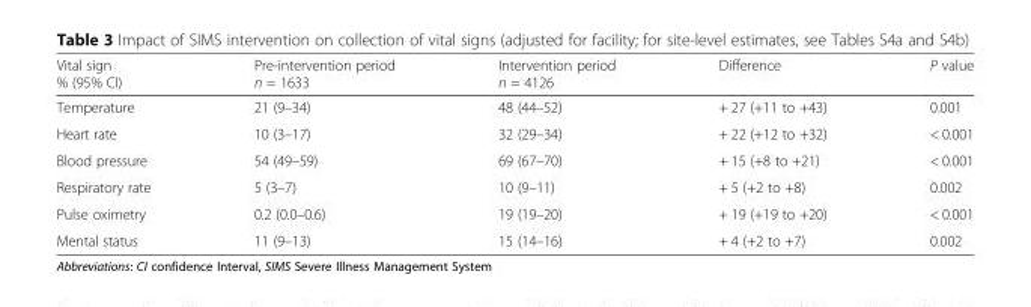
<table><thead><tr><td>Vital sign % (95% CI)</td><td>Pre-intervention period n = 1633</td><td>Intervention period n = 4126</td><td>Difference</td><td>P value</td></tr></thead><tbody><tr><td>Temperature</td><td>21 (9–34)</td><td>48 (44–52)</td><td>+ 27 (+11 to +43)</td><td>0.001</td></tr><tr><td>Heart rate</td><td>10 (3–17)</td><td>32 (29–34)</td><td>+ 22 (+12 to +32)</td><td>&lt; 0.001</td></tr><tr><td>Blood pressure</td><td>54 (49–59)</td><td>69 (67–70)</td><td>+ 15 (+8 to +21)</td><td>&lt; 0.001</td></tr><tr><td>Respiratory rate</td><td>5 (3–7)</td><td>10 (9–11)</td><td>+ 5 (+2 to +8)</td><td>0.002</td></tr><tr><td>Pulse oximetry</td><td>0.2 (0.0–0.6)</td><td>19 (19–20)</td><td>+ 19 (+19 to +20)</td><td>&lt; 0.001</td></tr><tr><td>Mental status</td><td>11 (9–13)</td><td>15 (14–16)</td><td>+ 4 (+2 to +7)</td><td>0.002</td></tr></tbody></table>